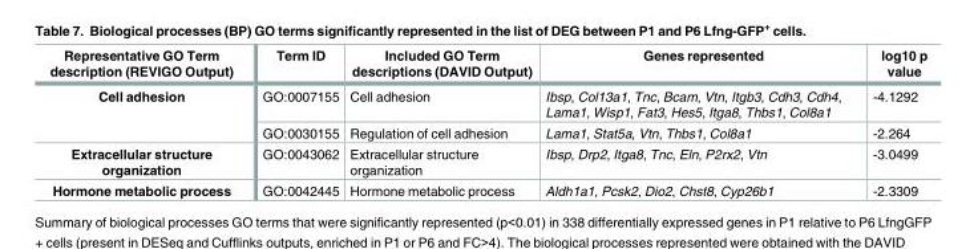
<table><thead><tr><td>Representative GO Term description (REVIGO Output)</td><td>Term ID</td><td>Included GO Term descriptions (DAVID Output)</td><td>Genes represented</td><td>log10 p value</td></tr></thead><tbody><tr><td rowspan="2">Cell adhesion</td><td>GO:0007155</td><td>Cell adhesion</td><td>Ibsp, Col13a1, Tnc, Bcam, Vtn, Itgb3, Cdh3, Cdh4, Lama1, Wisp1, Fat3, Hes5, Itga8, Thbs1, Col8a1</td><td>-4.1292</td></tr><tr><td>GO:0030155</td><td>Regulation of cell adhesion</td><td>Lama1, Stat5a, Vtn, Thbs1, Col8a1</td><td>-2.264</td></tr><tr><td>Extracellular structure organization</td><td>GO:0043062</td><td>Extracellular structure organization</td><td>Ibsp, Drp2, Itga8, Tnc, Eln, P2rx2, Vtn</td><td>-3.0499</td></tr><tr><td>Hormone metabolic process</td><td>GO:0042445</td><td>Hormone metabolic process</td><td>Aldh1a1, Pcsk2, Dio2, Chst8, Cyp26b1</td><td>-2.3309</td></tr></tbody></table>